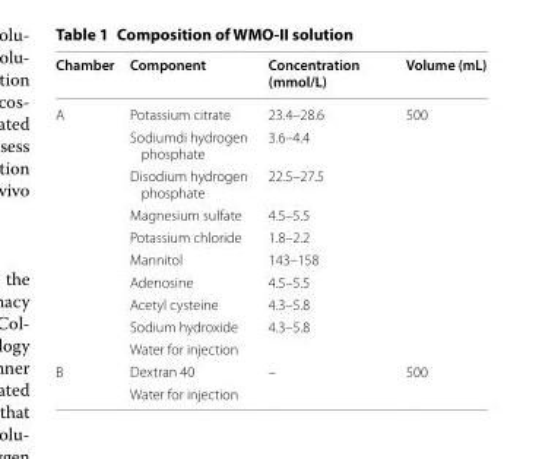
<table><thead><tr><td>Chamber</td><td>Component</td><td>Concentration (mmol/L)</td><td>Volume (mL)</td></tr></thead><tbody><tr><td rowspan="10">A</td><td>Potassium citrate</td><td>23.4–28.6</td><td rowspan="10">500</td></tr><tr><td>Sodiumdi hydrogen phosphate</td><td>3.6–4.4</td></tr><tr><td>Disodium hydrogen phosphate</td><td>22.5–27.5</td></tr><tr><td>Magnesium sulfate</td><td>4.5–5.5</td></tr><tr><td>Potassium chloride</td><td>1.8–2.2</td></tr><tr><td>Mannitol</td><td>143–158</td></tr><tr><td>Adenosine</td><td>4.5–5.5</td></tr><tr><td>Acetyl cysteine</td><td>4.3–5.8</td></tr><tr><td>Sodium hydroxide</td><td>4.3–5.8</td></tr><tr><td>Water for injection</td><td></td></tr><tr><td rowspan="2">B</td><td>Dextran 40</td><td>–</td><td rowspan="2">500</td></tr><tr><td>Water for injection</td><td></td></tr></tbody></table>